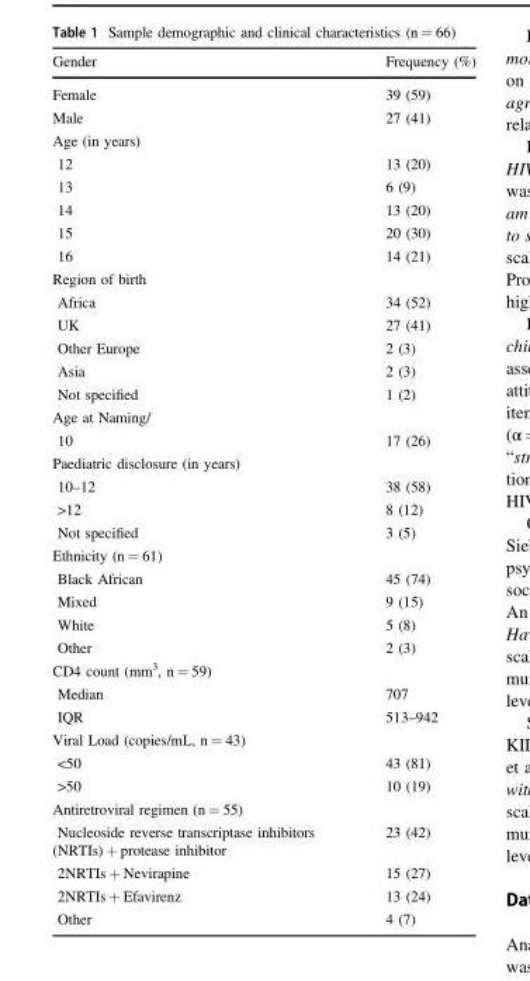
<table><thead><tr><td>Gender</td><td>Frequency (%)</td></tr></thead><tbody><tr><td>Female</td><td>39 (59)</td></tr><tr><td>Male</td><td>27 (41)</td></tr><tr><td colspan="2">Age (in years)</td></tr><tr><td>12</td><td>13 (20)</td></tr><tr><td>13</td><td>6 (9)</td></tr><tr><td>14</td><td>13 (20)</td></tr><tr><td>15</td><td>20 (30)</td></tr><tr><td>16</td><td>14 (21)</td></tr><tr><td colspan="2">Region of birth</td></tr><tr><td>Africa</td><td>34 (52)</td></tr><tr><td>UK</td><td>27 (41)</td></tr><tr><td>Other Europe</td><td>2 (3)</td></tr><tr><td>Asia</td><td>2 (3)</td></tr><tr><td>Not specified</td><td>1 (2)</td></tr><tr><td colspan="2">Age at Naming/</td></tr><tr><td>10</td><td>17 (26)</td></tr><tr><td colspan="2">Paediatric disclosure (in years)</td></tr><tr><td>10–12</td><td>38 (58)</td></tr><tr><td>&gt;12</td><td>8 (12)</td></tr><tr><td>Not specified</td><td>3 (5)</td></tr><tr><td colspan="2">Ethnicity (n = 61)</td></tr><tr><td>Black African</td><td>45 (74)</td></tr><tr><td>Mixed</td><td>9 (15)</td></tr><tr><td>White</td><td>5 (8)</td></tr><tr><td>Other</td><td>2 (3)</td></tr><tr><td colspan="2">CD4 count (mm<sup>3</sup>, n = 59)</td></tr><tr><td>Median</td><td>707</td></tr><tr><td>IQR</td><td>513–942</td></tr><tr><td colspan="2">Viral Load (copies/mL, n = 43)</td></tr><tr><td>&lt;50</td><td>43 (81)</td></tr><tr><td>&gt;50</td><td>10 (19)</td></tr><tr><td colspan="2">Antiretroviral regimen (n = 55)</td></tr><tr><td>Nucleoside reverse transcriptase inhibitors (NRTIs) + protease inhibitor</td><td>23 (42)</td></tr><tr><td>2NRTIs + Nevirapine</td><td>15 (27)</td></tr><tr><td>2NRTIs + Efavirenz</td><td>13 (24)</td></tr><tr><td>Other</td><td>4 (7)</td></tr></tbody></table>